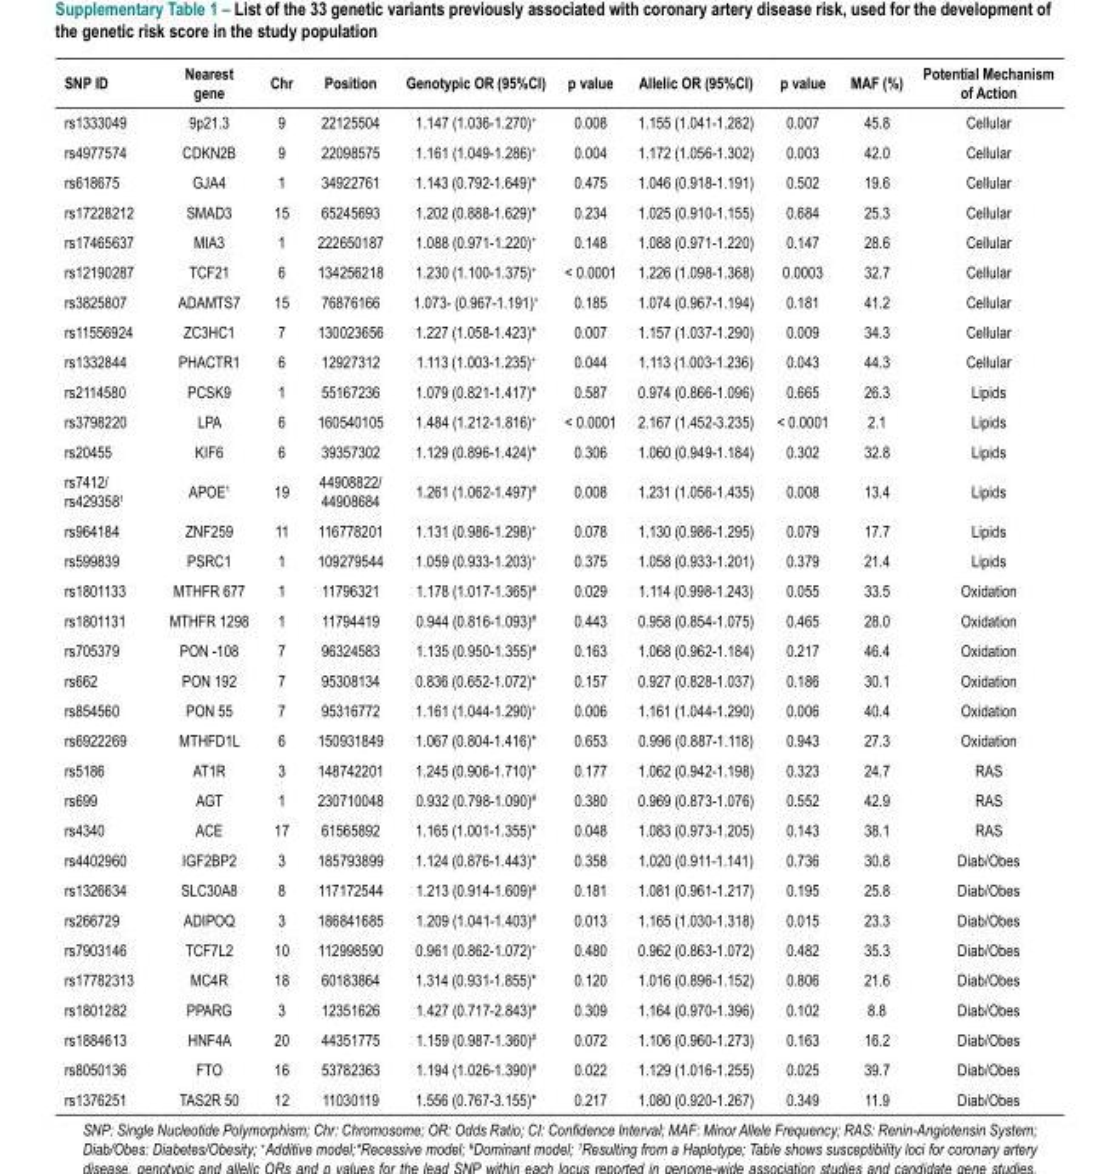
<table><thead><tr><td>SNP ID</td><td>Nearest gene</td><td>Chr</td><td>Position</td><td>Genotypic OR (95%CI)</td><td>p value</td><td>Allelic OR (95%CI)</td><td>p value</td><td>MAF (%)</td><td>Potential Mechanism of Action</td></tr></thead><tbody><tr><td>rs1333049</td><td>9p21.3</td><td>9</td><td>22125504</td><td>1.147 (1.036-1.270)<sup>+</sup></td><td>0.008</td><td>1.155 (1.041-1.282)</td><td>0.007</td><td>45.8</td><td>Cellular</td></tr><tr><td>rs4977574</td><td>CDKN2B</td><td>9</td><td>22098575</td><td>1.161 (1.049-1.286)<sup>+</sup></td><td>0.004</td><td>1.172 (1.056-1.302)</td><td>0.003</td><td>42.0</td><td>Cellular</td></tr><tr><td>rs618675</td><td>GJA4</td><td>1</td><td>34922761</td><td>1.143 (0.792-1.649)*</td><td>0.475</td><td>1.046 (0.918-1.191)</td><td>0.502</td><td>19.6</td><td>Cellular</td></tr><tr><td>rs17228212</td><td>SMAD3</td><td>15</td><td>65245693</td><td>1.202 (0.888-1.629)*</td><td>0.234</td><td>1.025 (0.910-1.155)</td><td>0.684</td><td>25.3</td><td>Cellular</td></tr><tr><td>rs17465637</td><td>MIA3</td><td>1</td><td>222650187</td><td>1.088 (0.971-1.220)<sup>+</sup></td><td>0.148</td><td>1.088 (0.971-1.220)</td><td>0.147</td><td>28.6</td><td>Cellular</td></tr><tr><td>rs12190287</td><td>TCF21</td><td>6</td><td>134256218</td><td>1.230 (1.100-1.375)<sup>+</sup></td><td>&lt; 0.0001</td><td>1.226 (1.098-1.368)</td><td>0.0003</td><td>32.7</td><td>Cellular</td></tr><tr><td>rs3825807</td><td>ADAMTS7</td><td>15</td><td>76876166</td><td>1.073- (0.967-1.191)<sup>+</sup></td><td>0.185</td><td>1.074 (0.967-1.194)</td><td>0.181</td><td>41.2</td><td>Cellular</td></tr><tr><td>rs11556924</td><td>ZC3HC1</td><td>7</td><td>130023656</td><td>1.227 (1.058-1.423)*</td><td>0.007</td><td>1.157 (1.037-1.290)</td><td>0.009</td><td>34.3</td><td>Cellular</td></tr><tr><td>rs1332844</td><td>PHACTR1</td><td>6</td><td>12927312</td><td>1.113 (1.003-1.235)<sup>+</sup></td><td>0.044</td><td>1.113 (1.003-1.236)</td><td>0.043</td><td>44.3</td><td>Cellular</td></tr><tr><td>rs2114580</td><td>PCSK9</td><td>1</td><td>55167236</td><td>1.079 (0.821-1.417)*</td><td>0.587</td><td>0.974 (0.866-1.096)</td><td>0.665</td><td>26.3</td><td>Lipids</td></tr><tr><td>rs3798220</td><td>LPA</td><td>6</td><td>160540105</td><td>1.484 (1.212-1.816)<sup>+</sup></td><td>&lt; 0.0001</td><td>2.167 (1.452-3.235)</td><td>&lt; 0.0001</td><td>2.1</td><td>Lipids</td></tr><tr><td>rs20455</td><td>KIF6</td><td>6</td><td>39357302</td><td>1.129 (0.896-1.424)*</td><td>0.306</td><td>1.060 (0.949-1.184)</td><td>0.302</td><td>32.8</td><td>Lipids</td></tr><tr><td>rs7412/ rs429358<sup>1</sup></td><td>APOE<sup>1</sup></td><td>19</td><td>44908822/ 44908684</td><td>1.261 (1.062-1.497)<sup>#</sup></td><td>0.008</td><td>1.231 (1.056-1.435)</td><td>0.008</td><td>13.4</td><td>Lipids</td></tr><tr><td>rs964184</td><td>ZNF259</td><td>11</td><td>116778201</td><td>1.131 (0.986-1.298)<sup>+</sup></td><td>0.078</td><td>1.130 (0.986-1.295)</td><td>0.079</td><td>17.7</td><td>Lipids</td></tr><tr><td>rs599839</td><td>PSRC1</td><td>1</td><td>109279544</td><td>1.059 (0.933-1.203)<sup>+</sup></td><td>0.375</td><td>1.058 (0.933-1.201)</td><td>0.379</td><td>21.4</td><td>Lipids</td></tr><tr><td>rs1801133</td><td>MTHFR 677</td><td>1</td><td>11796321</td><td>1.178 (1.017-1.365)<sup>#</sup></td><td>0.029</td><td>1.114 (0.998-1.243)</td><td>0.055</td><td>33.5</td><td>Oxidation</td></tr><tr><td>rs1801131</td><td>MTHFR 1298</td><td>1</td><td>11794419</td><td>0.944 (0.816-1.093)<sup>#</sup></td><td>0.443</td><td>0.958 (0.854-1.075)</td><td>0.465</td><td>28.0</td><td>Oxidation</td></tr><tr><td>rs705379</td><td>PON -108</td><td>7</td><td>96324583</td><td>1.135 (0.950-1.355)<sup>#</sup></td><td>0.163</td><td>1.068 (0.962-1.184)</td><td>0.217</td><td>46.4</td><td>Oxidation</td></tr><tr><td>rs662</td><td>PON 192</td><td>7</td><td>95308134</td><td>0.836 (0.652-1.072)*</td><td>0.157</td><td>0.927 (0.828-1.037)</td><td>0.186</td><td>30.1</td><td>Oxidation</td></tr><tr><td>rs854560</td><td>PON 55</td><td>7</td><td>95316772</td><td>1.161 (1.044-1.290)<sup>+</sup></td><td>0.006</td><td>1.161 (1.044-1.290)</td><td>0.006</td><td>40.4</td><td>Oxidation</td></tr><tr><td>rs6922269</td><td>MTHFD1L</td><td>6</td><td>150931849</td><td>1.067 (0.804-1.416)*</td><td>0.653</td><td>0.996 (0.887-1.118)</td><td>0.943</td><td>27.3</td><td>Oxidation</td></tr><tr><td>rs5186</td><td>AT1R</td><td>3</td><td>148742201</td><td>1.245 (0.906-1.710)*</td><td>0.177</td><td>1.062 (0.942-1.198)</td><td>0.323</td><td>24.7</td><td>RAS</td></tr><tr><td>rs699</td><td>AGT</td><td>1</td><td>230710048</td><td>0.932 (0.798-1.090)<sup>#</sup></td><td>0.380</td><td>0.969 (0.873-1.076)</td><td>0.552</td><td>42.9</td><td>RAS</td></tr><tr><td>rs4340</td><td>ACE</td><td>17</td><td>61565892</td><td>1.165 (1.001-1.355)*</td><td>0.048</td><td>1.083 (0.973-1.205)</td><td>0.143</td><td>38.1</td><td>RAS</td></tr><tr><td>rs4402960</td><td>IGF2BP2</td><td>3</td><td>185793899</td><td>1.124 (0.876-1.443)*</td><td>0.358</td><td>1.020 (0.911-1.141)</td><td>0.736</td><td>30.8</td><td>Diab/Obes</td></tr><tr><td>rs1326634</td><td>SLC30A8</td><td>8</td><td>117172544</td><td>1.213 (0.914-1.609)<sup>#</sup></td><td>0.181</td><td>1.081 (0.961-1.217)</td><td>0.195</td><td>25.8</td><td>Diab/Obes</td></tr><tr><td>rs266729</td><td>ADIPOQ</td><td>3</td><td>186841685</td><td>1.209 (1.041-1.403)<sup>#</sup></td><td>0.013</td><td>1.165 (1.030-1.318)</td><td>0.015</td><td>23.3</td><td>Diab/Obes</td></tr><tr><td>rs7903146</td><td>TCF7L2</td><td>10</td><td>112998590</td><td>0.961 (0.862-1.072)<sup>+</sup></td><td>0.480</td><td>0.962 (0.863-1.072)</td><td>0.482</td><td>35.3</td><td>Diab/Obes</td></tr><tr><td>rs17782313</td><td>MC4R</td><td>18</td><td>60183864</td><td>1.314 (0.931-1.855)*</td><td>0.120</td><td>1.016 (0.896-1.152)</td><td>0.806</td><td>21.6</td><td>Diab/Obes</td></tr><tr><td>rs1801282</td><td>PPARG</td><td>3</td><td>12351626</td><td>1.427 (0.717-2.843)<sup>#</sup></td><td>0.309</td><td>1.164 (0.970-1.396)</td><td>0.102</td><td>8.8</td><td>Diab/Obes</td></tr><tr><td>rs1884613</td><td>HNF4A</td><td>20</td><td>44351775</td><td>1.159 (0.987-1.360)<sup>#</sup></td><td>0.072</td><td>1.106 (0.960-1.273)</td><td>0.163</td><td>16.2</td><td>Diab/Obes</td></tr><tr><td>rs8050136</td><td>FTO</td><td>16</td><td>53782363</td><td>1.194 (1.026-1.390)<sup>#</sup></td><td>0.022</td><td>1.129 (1.016-1.255)</td><td>0.025</td><td>39.7</td><td>Diab/Obes</td></tr><tr><td>rs1376251</td><td>TAS2R 50</td><td>12</td><td>11030119</td><td>1.556 (0.767-3.155)*</td><td>0.217</td><td>1.080 (0.920-1.267)</td><td>0.349</td><td>11.9</td><td>Diab/Obes</td></tr></tbody></table>